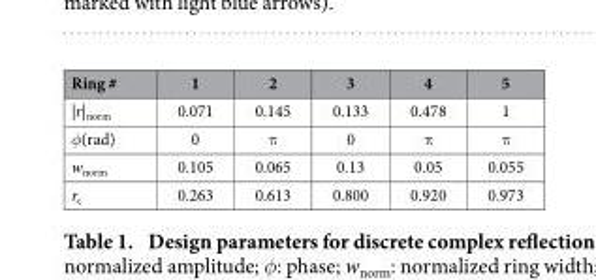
<table><thead><tr><td>Ring #</td><td>1</td><td>2</td><td>3</td><td>4</td><td>5</td></tr></thead><tbody><tr><td>|r|<sub>norm</sub></td><td>0.071</td><td>0.145</td><td>0.133</td><td>0.478</td><td>1</td></tr><tr><td>φ(rad)</td><td>0</td><td>π</td><td>0</td><td>π</td><td>π</td></tr><tr><td>w<sub>norm</sub></td><td>0.105</td><td>0.065</td><td>0.13</td><td>0.05</td><td>0.055</td></tr><tr><td>r<sub>c</sub></td><td>0.263</td><td>0.613</td><td>0.800</td><td>0.920</td><td>0.973</td></tr></tbody></table>